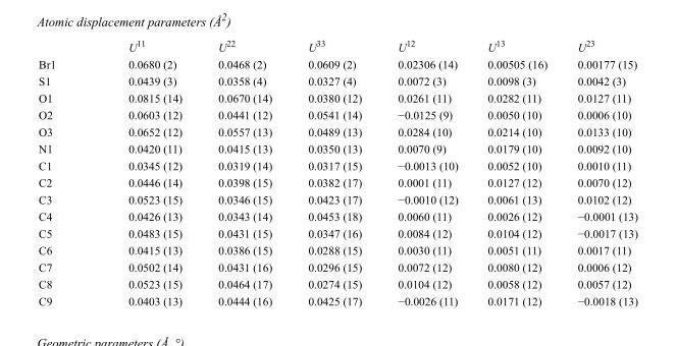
<table><thead><tr><td></td><td>U<sup>11</sup></td><td>U<sup>22</sup></td><td>U<sup>33</sup></td><td>U<sup>12</sup></td><td>U<sup>13</sup></td><td>U<sup>23</sup></td></tr></thead><tbody><tr><td>Br1</td><td>0.0680 (2)</td><td>0.0468 (2)</td><td>0.0609 (2)</td><td>0.02306 (14)</td><td>0.00505 (16)</td><td>0.00177 (15)</td></tr><tr><td>S1</td><td>0.0439 (3)</td><td>0.0358 (4)</td><td>0.0327 (4)</td><td>0.0072 (3)</td><td>0.0098 (3)</td><td>0.0042 (3)</td></tr><tr><td>O1</td><td>0.0815 (14)</td><td>0.0670 (14)</td><td>0.0380 (12)</td><td>0.0261 (11)</td><td>0.0282 (11)</td><td>0.0127 (11)</td></tr><tr><td>O2</td><td>0.0603 (12)</td><td>0.0441 (12)</td><td>0.0541 (14)</td><td>−0.0125 (9)</td><td>0.0050 (10)</td><td>0.0006 (10)</td></tr><tr><td>O3</td><td>0.0652 (12)</td><td>0.0557 (13)</td><td>0.0489 (13)</td><td>0.0284 (10)</td><td>0.0214 (10)</td><td>0.0133 (10)</td></tr><tr><td>N1</td><td>0.0420 (11)</td><td>0.0415 (13)</td><td>0.0350 (13)</td><td>0.0070 (9)</td><td>0.0179 (10)</td><td>0.0092 (10)</td></tr><tr><td>C1</td><td>0.0345 (12)</td><td>0.0319 (14)</td><td>0.0317 (15)</td><td>−0.0013 (10)</td><td>0.0052 (10)</td><td>0.0010 (11)</td></tr><tr><td>C2</td><td>0.0446 (14)</td><td>0.0398 (15)</td><td>0.0382 (17)</td><td>0.0001 (11)</td><td>0.0127 (12)</td><td>0.0070 (12)</td></tr><tr><td>C3</td><td>0.0523 (15)</td><td>0.0346 (15)</td><td>0.0423 (17)</td><td>−0.0010 (12)</td><td>0.0061 (13)</td><td>0.0102 (12)</td></tr><tr><td>C4</td><td>0.0426 (13)</td><td>0.0343 (14)</td><td>0.0453 (18)</td><td>0.0060 (11)</td><td>0.0026 (12)</td><td>−0.0001 (13)</td></tr><tr><td>C5</td><td>0.0483 (15)</td><td>0.0431 (15)</td><td>0.0347 (16)</td><td>0.0084 (12)</td><td>0.0104 (12)</td><td>−0.0017 (13)</td></tr><tr><td>C6</td><td>0.0415 (13)</td><td>0.0386 (15)</td><td>0.0288 (15)</td><td>0.0030 (11)</td><td>0.0051 (11)</td><td>0.0017 (11)</td></tr><tr><td>C7</td><td>0.0502 (14)</td><td>0.0431 (16)</td><td>0.0296 (15)</td><td>0.0072 (12)</td><td>0.0080 (12)</td><td>0.0006 (12)</td></tr><tr><td>C8</td><td>0.0523 (15)</td><td>0.0464 (17)</td><td>0.0274 (15)</td><td>0.0104 (12)</td><td>0.0058 (12)</td><td>0.0057 (12)</td></tr><tr><td>C9</td><td>0.0403 (13)</td><td>0.0444 (16)</td><td>0.0425 (17)</td><td>−0.0026 (11)</td><td>0.0171 (12)</td><td>−0.0018 (13)</td></tr></tbody></table>